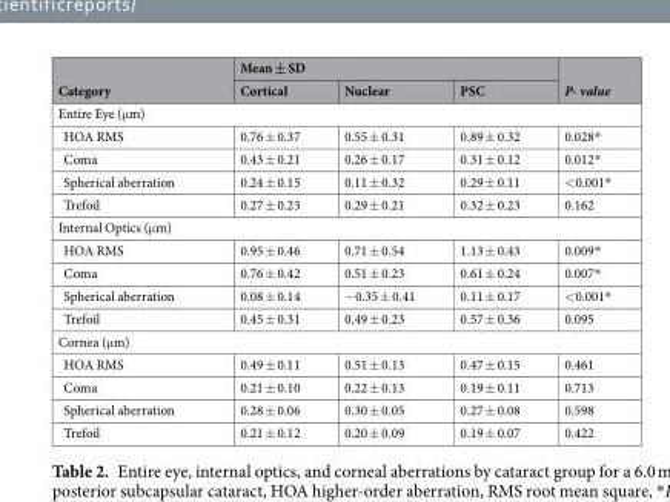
<table><thead><tr><td rowspan="2">Category</td><td colspan="3">Mean ± SD</td><td rowspan="2">P- value</td></tr><tr><td>Cortical</td><td>Nuclear</td><td>PSC</td></tr></thead><tbody><tr><td colspan="5">Entire Eye (μm)</td></tr><tr><td>HOA RMS</td><td>0.76 ± 0.37</td><td>0.55 ± 0.31</td><td>0.89 ± 0.32</td><td>0.028*</td></tr><tr><td>Coma</td><td>0.43 ± 0.21</td><td>0.26 ± 0.17</td><td>0.31 ± 0.12</td><td>0.012*</td></tr><tr><td>Spherical aberration</td><td>0.24 ± 0.15</td><td>0.11 ± 0.32</td><td>0.29 ± 0.11</td><td>&lt;0.001*</td></tr><tr><td>Trefoil</td><td>0.27 ± 0.23</td><td>0.29 ± 0.21</td><td>0.32 ± 0.23</td><td>0.162</td></tr><tr><td colspan="5">Internal Optics (μm)</td></tr><tr><td>HOA RMS</td><td>0.95 ± 0.46</td><td>0.71 ± 0.54</td><td>1.13 ± 0.43</td><td>0.009*</td></tr><tr><td>Coma</td><td>0.76 ± 0.42</td><td>0.51 ± 0.23</td><td>0.61 ± 0.24</td><td>0.007*</td></tr><tr><td>Spherical aberration</td><td>0.08 ± 0.14</td><td>−0.35 ± 0.41</td><td>0.11 ± 0.17</td><td>&lt;0.001*</td></tr><tr><td>Trefoil</td><td>0.45 ± 0.31</td><td>0.49 ± 0.23</td><td>0.57 ± 0.36</td><td>0.095</td></tr><tr><td colspan="5">Cornea (μm)</td></tr><tr><td>HOA RMS</td><td>0.49 ± 0.11</td><td>0.51 ± 0.13</td><td>0.47 ± 0.15</td><td>0.461</td></tr><tr><td>Coma</td><td>0.21 ± 0.10</td><td>0.22 ± 0.13</td><td>0.19 ± 0.11</td><td>0.713</td></tr><tr><td>Spherical aberration</td><td>0.28 ± 0.06</td><td>0.30 ± 0.05</td><td>0.27 ± 0.08</td><td>0.598</td></tr><tr><td>Trefoil</td><td>0.21 ± 0.12</td><td>0.20 ± 0.09</td><td>0.19 ± 0.07</td><td>0.422</td></tr></tbody></table>